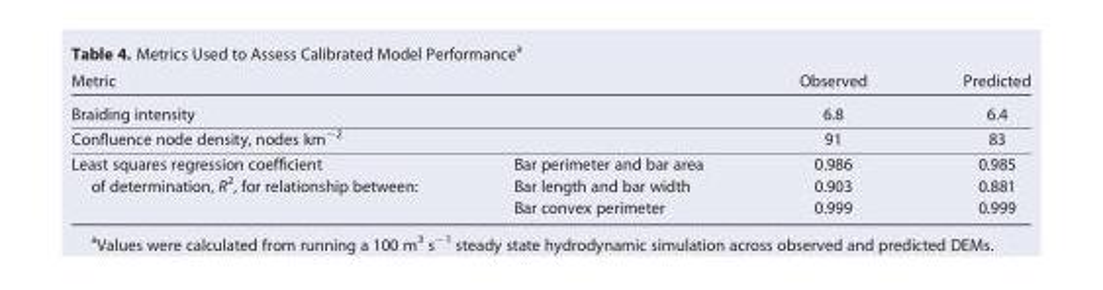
<table><thead><tr><td>Metric</td><td></td><td>Observed</td><td>Predicted</td></tr></thead><tbody><tr><td>Braiding intensity</td><td></td><td>6.8</td><td>6.4</td></tr><tr><td>Confluence node density, nodes km<sup>−2</sup></td><td></td><td>91</td><td>83</td></tr><tr><td rowspan="3">Least squares regression coefficient of determination, R<sup>2</sup>, for relationship between:</td><td>Bar perimeter and bar area</td><td>0.986</td><td>0.985</td></tr><tr><td>Bar length and bar width</td><td>0.903</td><td>0.881</td></tr><tr><td>Bar convex perimeter</td><td>0.999</td><td>0.999</td></tr></tbody></table>